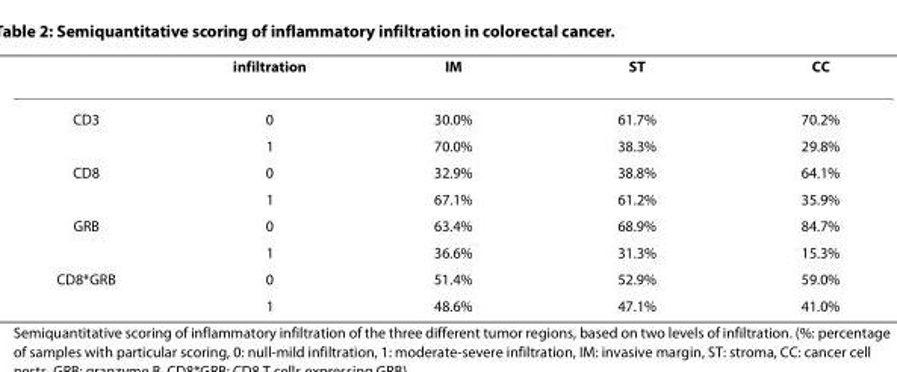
<table><thead><tr><td></td><td>infiltration</td><td>IM</td><td>ST</td><td>CC</td></tr></thead><tbody><tr><td rowspan="2">CD3</td><td>0</td><td>30.0%</td><td>61.7%</td><td>70.2%</td></tr><tr><td>1</td><td>70.0%</td><td>38.3%</td><td>29.8%</td></tr><tr><td rowspan="2">CD8</td><td>0</td><td>32.9%</td><td>38.8%</td><td>64.1%</td></tr><tr><td>1</td><td>67.1%</td><td>61.2%</td><td>35.9%</td></tr><tr><td rowspan="2">GRB</td><td>0</td><td>63.4%</td><td>68.9%</td><td>84.7%</td></tr><tr><td>1</td><td>36.6%</td><td>31.3%</td><td>15.3%</td></tr><tr><td rowspan="2">CD8*GRB</td><td>0</td><td>51.4%</td><td>52.9%</td><td>59.0%</td></tr><tr><td>1</td><td>48.6%</td><td>47.1%</td><td>41.0%</td></tr></tbody></table>